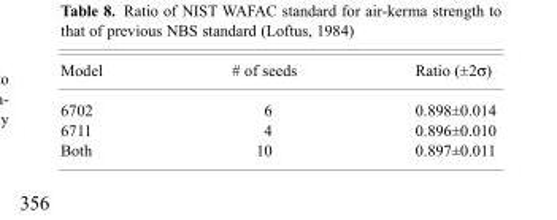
<table><thead><tr><td>Model</td><td># of seeds</td><td>Ratio (±2σ)</td></tr></thead><tbody><tr><td>6702</td><td>6</td><td>0.898±0.014</td></tr><tr><td>6711</td><td>4</td><td>0.896±0.010</td></tr><tr><td>Both</td><td>10</td><td>0.897±0.011</td></tr></tbody></table>